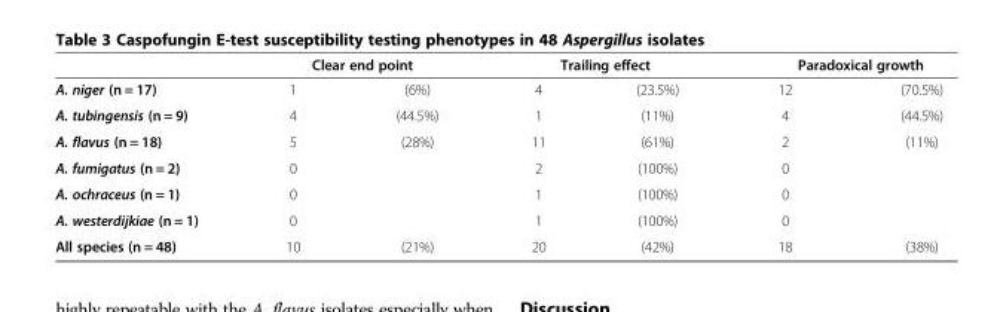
<table><thead><tr><td rowspan="2">A. niger (n = 17)</td><td colspan="2">Clear end point</td><td colspan="2">Trailing effect</td><td colspan="2">Paradoxical growth</td></tr><tr><td>1</td><td>(6%)</td><td>4</td><td>(23.5%)</td><td>12</td><td>(70.5%)</td></tr></thead><tbody><tr><td>A. tubingensis (n = 9)</td><td>4</td><td>(44.5%)</td><td>1</td><td>(11%)</td><td>4</td><td>(44.5%)</td></tr><tr><td>A. flavus (n = 18)</td><td>5</td><td>(28%)</td><td>11</td><td>(61%)</td><td>2</td><td>(11%)</td></tr><tr><td>A. fumigatus (n = 2)</td><td>0</td><td></td><td>2</td><td>(100%)</td><td>0</td><td></td></tr><tr><td>A. ochraceus (n = 1)</td><td>0</td><td></td><td>1</td><td>(100%)</td><td>0</td><td></td></tr><tr><td>A. westerdijkiae (n = 1)</td><td>0</td><td></td><td>1</td><td>(100%)</td><td>0</td><td></td></tr><tr><td>All species (n = 48)</td><td>10</td><td>(21%)</td><td>20</td><td>(42%)</td><td>18</td><td>(38%)</td></tr></tbody></table>